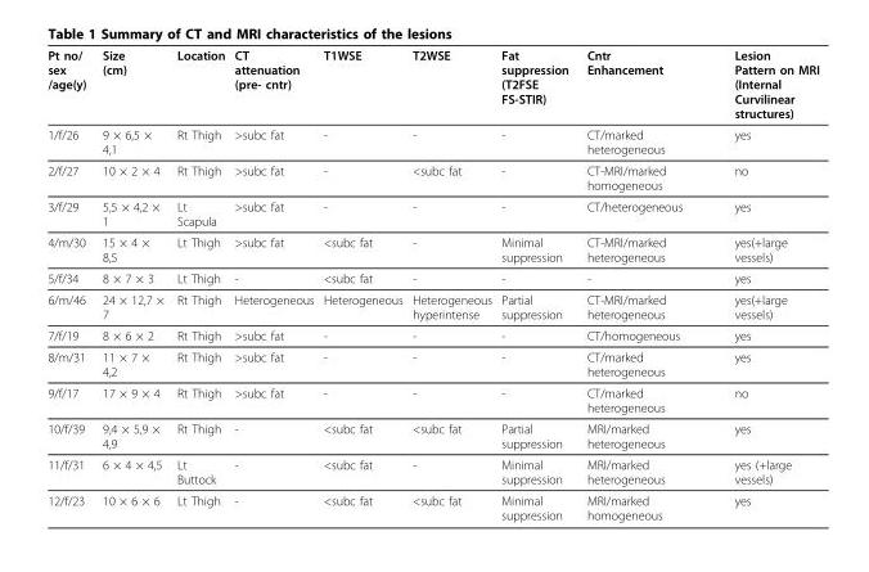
<table><thead><tr><td>Pt no/ sex /age(y)</td><td>Size (cm)</td><td>Location</td><td>CT attenuation (pre- cntr)</td><td>T1WSE</td><td>T2WSE</td><td>Fat suppression (T2FSE FS-STIR)</td><td>Cntr Enhancement</td><td>Lesion Pattern on MRI (Internal Curvilinear structures)</td></tr></thead><tbody><tr><td>1/f/26</td><td>9 × 6,5 × 4,1</td><td>Rt Thigh</td><td>&gt;subc fat</td><td>-</td><td>-</td><td>-</td><td>CT/marked heterogeneous</td><td>yes</td></tr><tr><td>2/f/27</td><td>10 × 2 × 4</td><td>Rt Thigh</td><td>&gt;subc fat</td><td>-</td><td>&lt;subc fat</td><td>-</td><td>CT-MRI/marked homogeneous</td><td>no</td></tr><tr><td>3/f/29</td><td>5,5 × 4,2 × 1</td><td>Lt Scapula</td><td>&gt;subc fat</td><td>-</td><td>-</td><td>-</td><td>CT/heterogeneous</td><td>yes</td></tr><tr><td>4/m/30</td><td>15 × 4 × 8,5</td><td>Lt Thigh</td><td>&gt;subc fat</td><td>&lt;subc fat</td><td>-</td><td>Minimal suppression</td><td>CT-MRI/marked heterogeneous</td><td>yes(+large vessels)</td></tr><tr><td>5/f/34</td><td>8 × 7 × 3</td><td>Lt Thigh</td><td>-</td><td>&lt;subc fat</td><td>-</td><td>-</td><td>-</td><td>yes</td></tr><tr><td>6/m/46</td><td>24 × 12,7 × 7</td><td>Rt Thigh</td><td>Heterogeneous</td><td>Heterogeneous</td><td>Heterogeneous hyperintense</td><td>Partial suppression</td><td>CT-MRI/marked heterogeneous</td><td>yes(+large vessels)</td></tr><tr><td>7/f/19</td><td>8 × 6 × 2</td><td>Rt Thigh</td><td>&gt;subc fat</td><td>-</td><td>-</td><td>-</td><td>CT/homogeneous</td><td>yes</td></tr><tr><td>8/m/31</td><td>11 × 7 × 4,2</td><td>Rt Thigh</td><td>&gt;subc fat</td><td>-</td><td>-</td><td>-</td><td>CT/marked heterogeneous</td><td>yes</td></tr><tr><td>9/f/17</td><td>17 × 9 × 4</td><td>Rt Thigh</td><td>&gt;subc fat</td><td>-</td><td>-</td><td>-</td><td>CT/marked heterogeneous</td><td>no</td></tr><tr><td>10/f/39</td><td>9,4 × 5,9 × 4,9</td><td>Rt Thigh</td><td>-</td><td>&lt;subc fat</td><td>&lt;subc fat</td><td>Partial suppression</td><td>MRI/marked heterogeneous</td><td>yes</td></tr><tr><td>11/f/31</td><td>6 × 4 × 4,5</td><td>Lt Buttock</td><td>-</td><td>&lt;subc fat</td><td>-</td><td>Minimal suppression</td><td>MRI/marked heterogeneous</td><td>yes (+large vessels)</td></tr><tr><td>12/f/23</td><td>10 × 6 × 6</td><td>Lt Thigh</td><td>-</td><td>&lt;subc fat</td><td>&lt;subc fat</td><td>Minimal suppression</td><td>MRI/marked homogeneous</td><td>yes</td></tr></tbody></table>